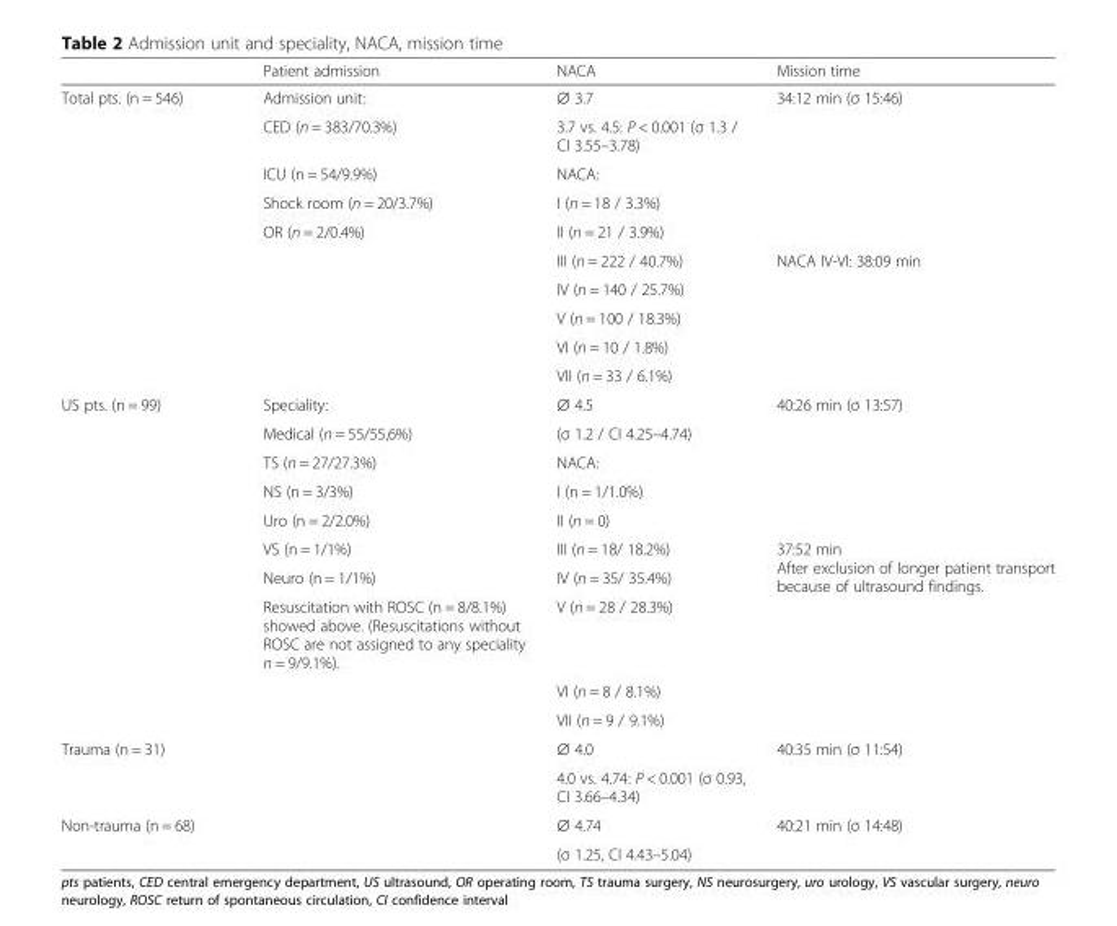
<table><thead><tr><td></td><td>Patient admission</td><td>NACA</td><td>Mission time</td></tr></thead><tbody><tr><td rowspan="10">Total pts. (n = 546)</td><td>Admission unit:</td><td>∅ 3.7</td><td rowspan="5">34:12 min (σ 15:46)</td></tr><tr><td>CED (n = 383/70.3%)</td><td>3.7 vs. 4.5: P &lt; 0.001 (σ 1.3 / CI 3.55–3.78)</td></tr><tr><td>ICU (n = 54/9.9%)</td><td>NACA:</td></tr><tr><td>Shock room (n = 20/3.7%)</td><td>I (n = 18 / 3.3%)</td></tr><tr><td>OR (n = 2/0.4%)</td><td>II (n = 21 / 3.9%)</td></tr><tr><td rowspan="5"></td><td>III (n = 222 / 40.7%)</td><td rowspan="5">NACA IV-VI: 38:09 min</td></tr><tr><td>IV (n = 140 / 25.7%)</td></tr><tr><td>V (n = 100 / 18.3%)</td></tr><tr><td>VI (n = 10 / 1.8%)</td></tr><tr><td>VII (n = 33 / 6.1%)</td></tr><tr><td rowspan="10">US pts. (n = 99)</td><td>Speciality:</td><td>∅ 4.5</td><td rowspan="5">40:26 min (σ 13:57)</td></tr><tr><td>Medical (n = 55/55,6%)</td><td>(σ 1.2 / CI 4.25–4.74)</td></tr><tr><td>TS (n = 27/27.3%)</td><td>NACA:</td></tr><tr><td>NS (n = 3/3%)</td><td>I (n = 1/1.0%)</td></tr><tr><td>Uro (n = 2/2.0%)</td><td>II (n = 0)</td></tr><tr><td>VS (n = 1/1%)</td><td>III (n = 18/ 18.2%)</td><td rowspan="5">37:52 min After exclusion of longer patient transport because of ultrasound findings.</td></tr><tr><td>Neuro (n = 1/1%)</td><td>IV (n = 35/ 35.4%)</td></tr><tr><td>Resuscitation with ROSC (n = 8/8.1%) showed above. (Resuscitations without ROSC are not assigned to any speciality n = 9/9.1%).</td><td>V (n = 28 / 28.3%)</td></tr><tr><td rowspan="2"></td><td>VI (n = 8 / 8.1%)</td></tr><tr><td>VII (n = 9 / 9.1%)</td></tr><tr><td rowspan="2">Trauma (n = 31)</td><td rowspan="2"></td><td>∅ 4.0</td><td rowspan="2">40:35 min (σ 11:54)</td></tr><tr><td>4.0 vs. 4.74: P &lt; 0.001 (σ 0.93, CI 3.66–4.34)</td></tr><tr><td rowspan="2">Non-trauma (n = 68)</td><td rowspan="2"></td><td>∅ 4.74</td><td rowspan="2">40:21 min (σ 14:48)</td></tr><tr><td>(σ 1.25, CI 4.43–5.04)</td></tr></tbody></table>